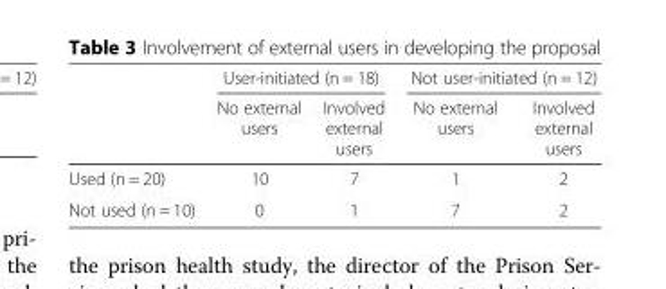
<table><thead><tr><td rowspan="2"></td><td colspan="2">User-initiated (n = 18)</td><td colspan="2">Not user-initiated (n = 12)</td></tr><tr><td>No external users</td><td>Involved external users</td><td>No external users</td><td>Involved external users</td></tr></thead><tbody><tr><td>Used (n = 20)</td><td>10</td><td>7</td><td>1</td><td>2</td></tr><tr><td>Not used (n = 10)</td><td>0</td><td>1</td><td>7</td><td>2</td></tr></tbody></table>